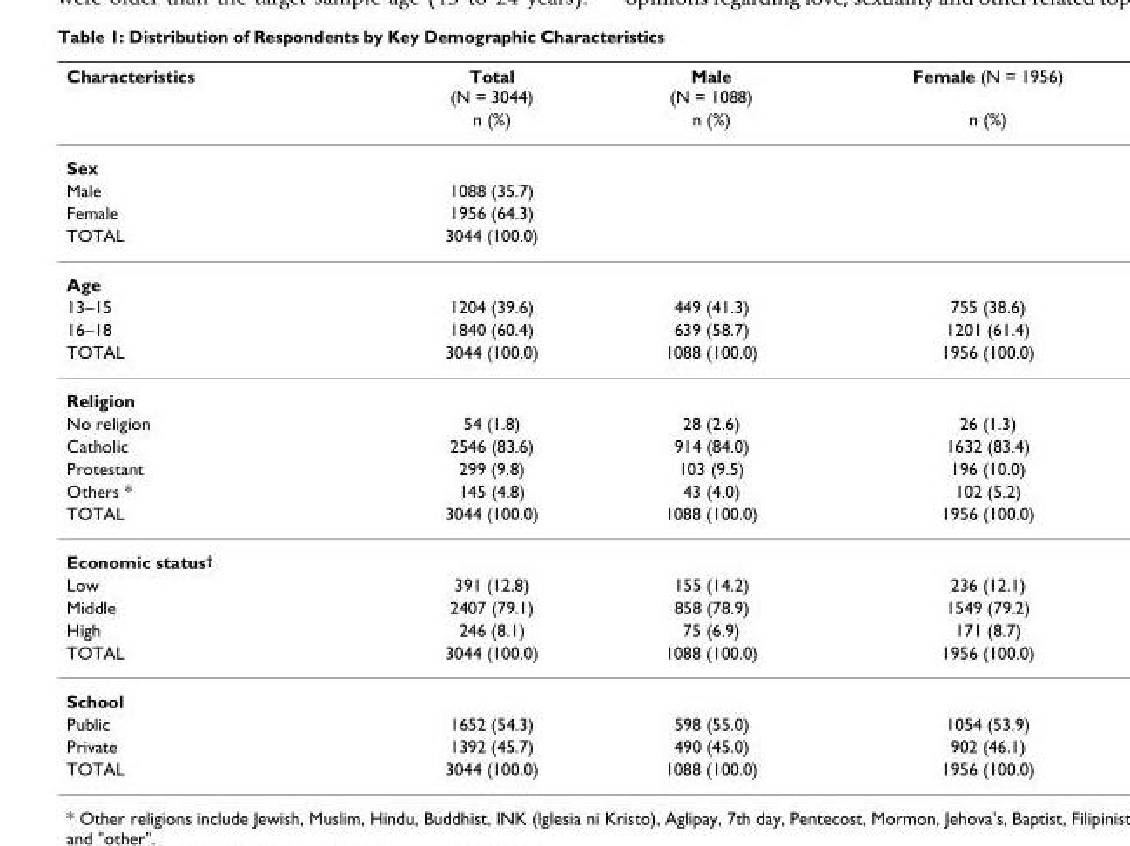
<table><thead><tr><td rowspan="2">Characteristics</td><td rowspan="2">Total (N = 3044) n (%)</td><td rowspan="2">Male (N = 1088) n (%)</td><td rowspan="2">Female (N = 1956) n (%)</td></tr><tr></tr></thead><tbody><tr><td colspan="4">Sex</td></tr><tr><td>Male</td><td>1088 (35.7)</td><td></td><td></td></tr><tr><td>Female</td><td>1956 (64.3)</td><td></td><td></td></tr><tr><td>TOTAL</td><td>3044 (100.0)</td><td></td><td></td></tr><tr><td colspan="4">Age</td></tr><tr><td>13–15</td><td>1204 (39.6)</td><td>449 (41.3)</td><td>755 (38.6)</td></tr><tr><td>16–18</td><td>1840 (60.4)</td><td>639 (58.7)</td><td>1201 (61.4)</td></tr><tr><td>TOTAL</td><td>3044 (100.0)</td><td>1088 (100.0)</td><td>1956 (100.0)</td></tr><tr><td colspan="4">Religion</td></tr><tr><td>No religion</td><td>54 (1.8)</td><td>28 (2.6)</td><td>26 (1.3)</td></tr><tr><td>Catholic</td><td>2546 (83.6)</td><td>914 (84.0)</td><td>1632 (83.4)</td></tr><tr><td>Protestant</td><td>299 (9.8)</td><td>103 (9.5)</td><td>196 (10.0)</td></tr><tr><td>Others *</td><td>145 (4.8)</td><td>43 (4.0)</td><td>102 (5.2)</td></tr><tr><td>TOTAL</td><td>3044 (100.0)</td><td>1088 (100.0)</td><td>1956 (100.0)</td></tr><tr><td colspan="4">Economic status<sup>†</sup></td></tr><tr><td>Low</td><td>391 (12.8)</td><td>155 (14.2)</td><td>236 (12.1)</td></tr><tr><td>Middle</td><td>2407 (79.1)</td><td>858 (78.9)</td><td>1549 (79.2)</td></tr><tr><td>High</td><td>246 (8.1)</td><td>75 (6.9)</td><td>171 (8.7)</td></tr><tr><td>TOTAL</td><td>3044 (100.0)</td><td>1088 (100.0)</td><td>1956 (100.0)</td></tr><tr><td colspan="4">School</td></tr><tr><td>Public</td><td>1652 (54.3)</td><td>598 (55.0)</td><td>1054 (53.9)</td></tr><tr><td>Private</td><td>1392 (45.7)</td><td>490 (45.0)</td><td>902 (46.1)</td></tr><tr><td>TOTAL</td><td>3044 (100.0)</td><td>1088 (100.0)</td><td>1956 (100.0)</td></tr></tbody></table>